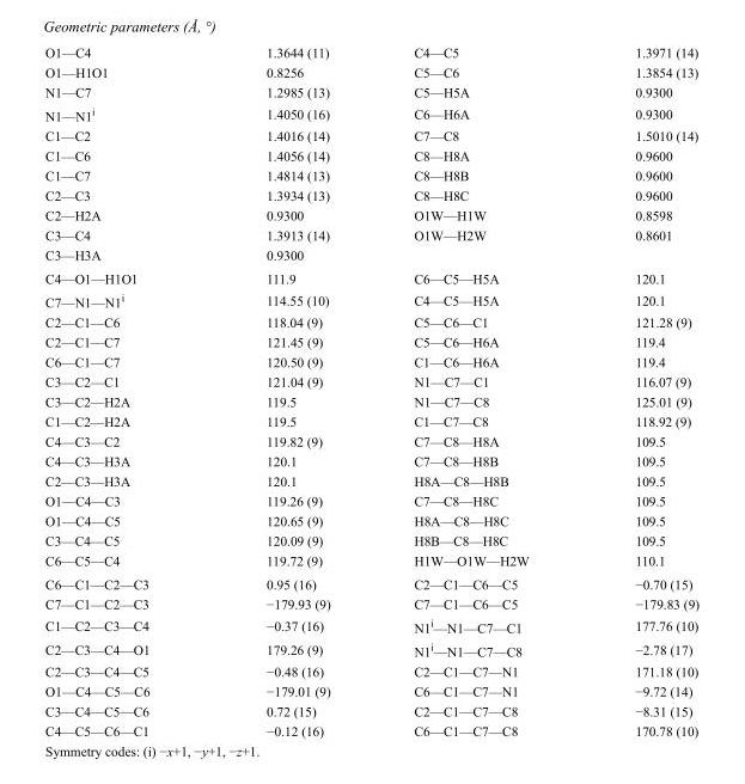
<table><tbody><tr><td>O1—C4</td><td>1.3644 (11)</td><td>C4—C5</td><td>1.3971 (14)</td></tr><tr><td>O1—H1O1</td><td>0.8256</td><td>C5—C6</td><td>1.3854 (13)</td></tr><tr><td>N1—C7</td><td>1.2985 (13)</td><td>C5—H5A</td><td>0.9300</td></tr><tr><td>N1—N1<sup>i</sup></td><td>1.4050 (16)</td><td>C6—H6A</td><td>0.9300</td></tr><tr><td>C1—C2</td><td>1.4016 (14)</td><td>C7—C8</td><td>1.5010 (14)</td></tr><tr><td>C1—C6</td><td>1.4056 (14)</td><td>C8—H8A</td><td>0.9600</td></tr><tr><td>C1—C7</td><td>1.4814 (13)</td><td>C8—H8B</td><td>0.9600</td></tr><tr><td>C2—C3</td><td>1.3934 (13)</td><td>C8—H8C</td><td>0.9600</td></tr><tr><td>C2—H2A</td><td>0.9300</td><td>O1W—H1W</td><td>0.8598</td></tr><tr><td>C3—C4</td><td>1.3913 (14)</td><td>O1W—H2W</td><td>0.8601</td></tr><tr><td>C3—H3A</td><td>0.9300</td><td></td><td></td></tr><tr><td>C4—O1—H1O1</td><td>111.9</td><td>C6—C5—H5A</td><td>120.1</td></tr><tr><td>C7—N1—N1<sup>i</sup></td><td>114.55 (10)</td><td>C4—C5—H5A</td><td>120.1</td></tr><tr><td>C2—C1—C6</td><td>118.04 (9)</td><td>C5—C6—C1</td><td>121.28 (9)</td></tr><tr><td>C2—C1—C7</td><td>121.45 (9)</td><td>C5—C6—H6A</td><td>119.4</td></tr><tr><td>C6—C1—C7</td><td>120.50 (9)</td><td>C1—C6—H6A</td><td>119.4</td></tr><tr><td>C3—C2—C1</td><td>121.04 (9)</td><td>N1—C7—C1</td><td>116.07 (9)</td></tr><tr><td>C3—C2—H2A</td><td>119.5</td><td>N1—C7—C8</td><td>125.01 (9)</td></tr><tr><td>C1—C2—H2A</td><td>119.5</td><td>C1—C7—C8</td><td>118.92 (9)</td></tr><tr><td>C4—C3—C2</td><td>119.82 (9)</td><td>C7—C8—H8A</td><td>109.5</td></tr><tr><td>C4—C3—H3A</td><td>120.1</td><td>C7—C8—H8B</td><td>109.5</td></tr><tr><td>C2—C3—H3A</td><td>120.1</td><td>H8A—C8—H8B</td><td>109.5</td></tr><tr><td>O1—C4—C3</td><td>119.26 (9)</td><td>C7—C8—H8C</td><td>109.5</td></tr><tr><td>O1—C4—C5</td><td>120.65 (9)</td><td>H8A—C8—H8C</td><td>109.5</td></tr><tr><td>C3—C4—C5</td><td>120.09 (9)</td><td>H8B—C8—H8C</td><td>109.5</td></tr><tr><td>C6—C5—C4</td><td>119.72 (9)</td><td>H1W—O1W—H2W</td><td>110.1</td></tr><tr><td>C6—C1—C2—C3</td><td>0.95 (16)</td><td>C2—C1—C6—C5</td><td>−0.70 (15)</td></tr><tr><td>C7—C1—C2—C3</td><td>−179.93 (9)</td><td>C7—C1—C6—C5</td><td>−179.83 (9)</td></tr><tr><td>C1—C2—C3—C4</td><td>−0.37 (16)</td><td>N1<sup>i</sup>—N1—C7—C1</td><td>177.76 (10)</td></tr><tr><td>C2—C3—C4—O1</td><td>179.26 (9)</td><td>N1<sup>i</sup>—N1—C7—C8</td><td>−2.78 (17)</td></tr><tr><td>C2—C3—C4—C5</td><td>−0.48 (16)</td><td>C2—C1—C7—N1</td><td>171.18 (10)</td></tr><tr><td>O1—C4—C5—C6</td><td>−179.01 (9)</td><td>C6—C1—C7—N1</td><td>−9.72 (14)</td></tr><tr><td>C3—C4—C5—C6</td><td>0.72 (15)</td><td>C2—C1—C7—C8</td><td>−8.31 (15)</td></tr><tr><td>C4—C5—C6—C1</td><td>−0.12 (16)</td><td>C6—C1—C7—C8</td><td>170.78 (10)</td></tr></tbody></table>